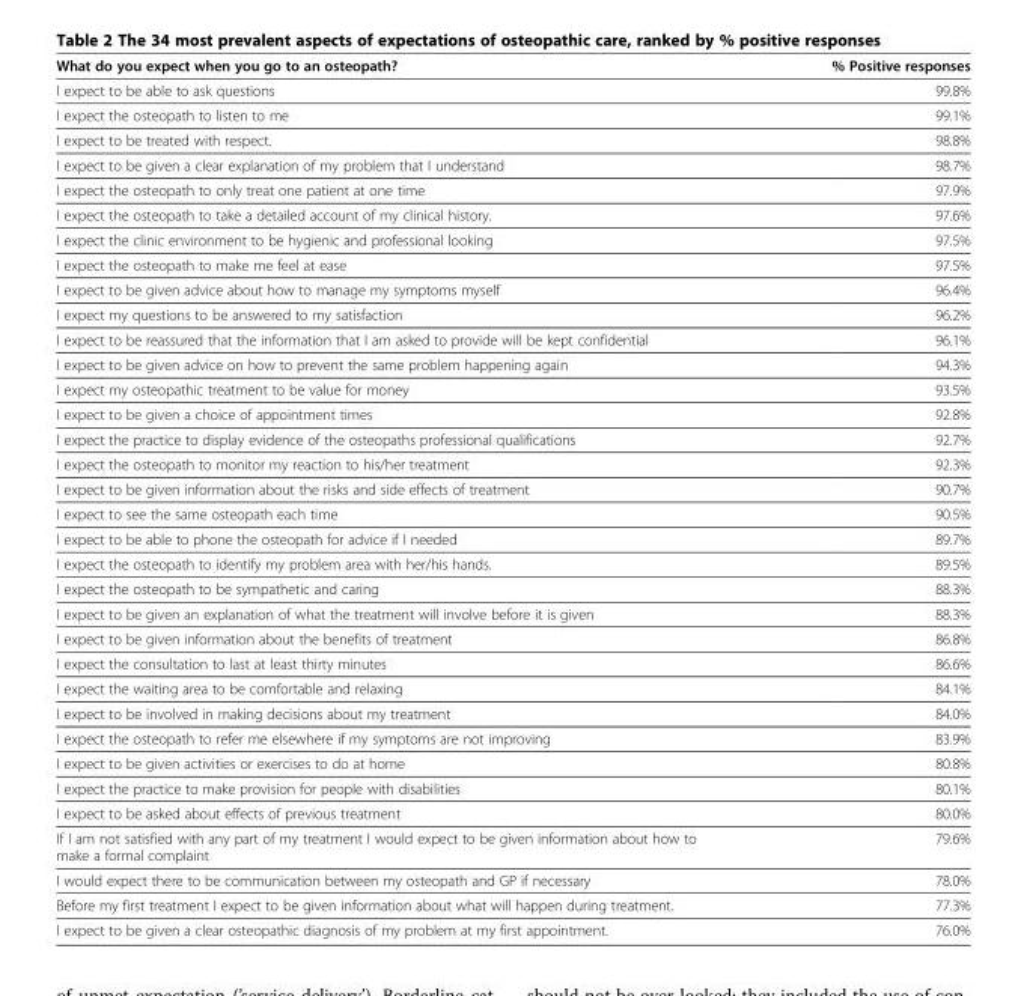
<table><thead><tr><td>What do you expect when you go to an osteopath?</td><td>% Positive responses</td></tr></thead><tbody><tr><td>I expect to be able to ask questions</td><td>99.8%</td></tr><tr><td>I expect the osteopath to listen to me</td><td>99.1%</td></tr><tr><td>I expect to be treated with respect.</td><td>98.8%</td></tr><tr><td>I expect to be given a clear explanation of my problem that I understand</td><td>98.7%</td></tr><tr><td>I expect the osteopath to only treat one patient at one time</td><td>97.9%</td></tr><tr><td>I expect the osteopath to take a detailed account of my clinical history.</td><td>97.6%</td></tr><tr><td>I expect the clinic environment to be hygienic and professional looking</td><td>97.5%</td></tr><tr><td>I expect the osteopath to make me feel at ease</td><td>97.5%</td></tr><tr><td>I expect to be given advice about how to manage my symptoms myself</td><td>96.4%</td></tr><tr><td>I expect my questions to be answered to my satisfaction</td><td>96.2%</td></tr><tr><td>I expect to be reassured that the information that I am asked to provide will be kept confidential</td><td>96.1%</td></tr><tr><td>I expect to be given advice on how to prevent the same problem happening again</td><td>94.3%</td></tr><tr><td>I expect my osteopathic treatment to be value for money</td><td>93.5%</td></tr><tr><td>I expect to be given a choice of appointment times</td><td>92.8%</td></tr><tr><td>I expect the practice to display evidence of the osteopaths professional qualifications</td><td>92.7%</td></tr><tr><td>I expect the osteopath to monitor my reaction to his/her treatment</td><td>92.3%</td></tr><tr><td>I expect to be given information about the risks and side effects of treatment</td><td>90.7%</td></tr><tr><td>I expect to see the same osteopath each time</td><td>90.5%</td></tr><tr><td>I expect to be able to phone the osteopath for advice if I needed</td><td>89.7%</td></tr><tr><td>I expect the osteopath to identify my problem area with her/his hands.</td><td>89.5%</td></tr><tr><td>I expect the osteopath to be sympathetic and caring</td><td>88.3%</td></tr><tr><td>I expect to be given an explanation of what the treatment will involve before it is given</td><td>88.3%</td></tr><tr><td>I expect to be given information about the benefits of treatment</td><td>86.8%</td></tr><tr><td>I expect the consultation to last at least thirty minutes</td><td>86.6%</td></tr><tr><td>I expect the waiting area to be comfortable and relaxing</td><td>84.1%</td></tr><tr><td>I expect to be involved in making decisions about my treatment</td><td>84.0%</td></tr><tr><td>I expect the osteopath to refer me elsewhere if my symptoms are not improving</td><td>83.9%</td></tr><tr><td>I expect to be given activities or exercises to do at home</td><td>80.8%</td></tr><tr><td>I expect the practice to make provision for people with disabilities</td><td>80.1%</td></tr><tr><td>I expect to be asked about effects of previous treatment</td><td>80.0%</td></tr><tr><td>If I am not satisfied with any part of my treatment I would expect to be given information about how to make a formal complaint</td><td>79.6%</td></tr><tr><td>I would expect there to be communication between my osteopath and GP if necessary</td><td>78.0%</td></tr><tr><td>Before my first treatment I expect to be given information about what will happen during treatment.</td><td>77.3%</td></tr><tr><td>I expect to be given a clear osteopathic diagnosis of my problem at my first appointment.</td><td>76.0%</td></tr></tbody></table>